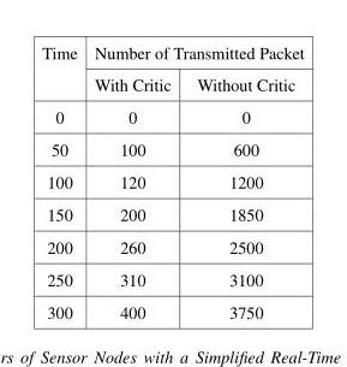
<table><thead><tr><td rowspan="2">Time</td><td colspan="2">Number of Transmitted Packet</td></tr><tr><td>With Critic</td><td>Without Critic</td></tr></thead><tbody><tr><td>0</td><td>0</td><td>0</td></tr><tr><td>50</td><td>100</td><td>600</td></tr><tr><td>100</td><td>120</td><td>1200</td></tr><tr><td>150</td><td>200</td><td>1850</td></tr><tr><td>200</td><td>260</td><td>2500</td></tr><tr><td>250</td><td>310</td><td>3100</td></tr><tr><td>300</td><td>400</td><td>3750</td></tr></tbody></table>